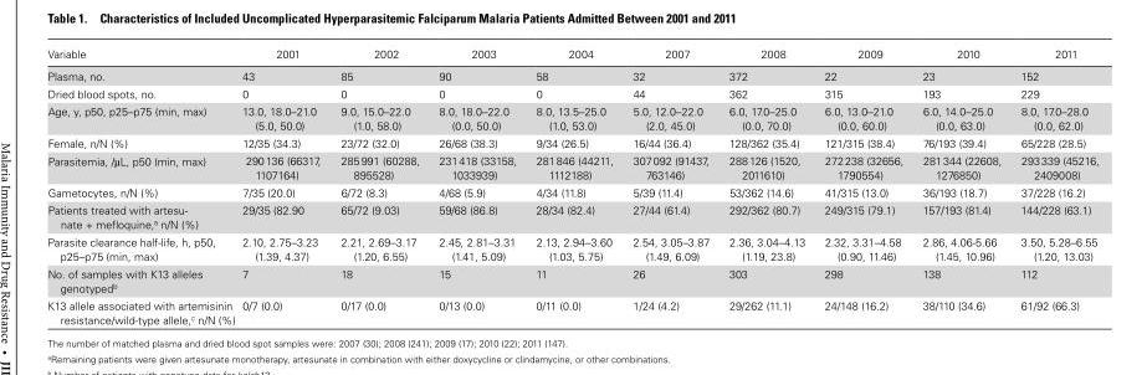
<table><thead><tr><td>Variable</td><td>2001</td><td>2002</td><td>2003</td><td>2004</td><td>2007</td><td>2008</td><td>2009</td><td>2010</td><td>2011</td></tr></thead><tbody><tr><td>Plasma, no.</td><td>43</td><td>85</td><td>90</td><td>58</td><td>32</td><td>372</td><td>22</td><td>23</td><td>152</td></tr><tr><td>Dried blood spots, no.</td><td>0</td><td>0</td><td>0</td><td>0</td><td>44</td><td>362</td><td>315</td><td>193</td><td>229</td></tr><tr><td>Age, y, p50, p25–p75 (min, max)</td><td>13.0, 18.0–21.0 (5.0, 50.0)</td><td>9.0, 15.0–22.0 (1.0, 58.0)</td><td>8.0, 18.0–22.0 (0.0, 50.0)</td><td>8.0, 13.5–25.0 (1.0, 53.0)</td><td>5.0, 12.0–22.0 (2.0, 45.0)</td><td>6.0, 17.0–25.0 (0.0, 70.0)</td><td>6.0, 13.0–21.0 (0.0, 60.0)</td><td>6.0, 14.0–25.0 (0.0, 63.0)</td><td>8.0, 17.0–28.0 (0.0, 62.0)</td></tr><tr><td>Female, n/N (%)</td><td>12/35 (34.3)</td><td>23/72 (32.0)</td><td>26/68 (38.3)</td><td>9/34 (26.5)</td><td>16/44 (36.4)</td><td>128/362 (35.4)</td><td>121/315 (38.4)</td><td>76/193 (39.4)</td><td>65/228 (28.5)</td></tr><tr><td>Parasitemia, /µL, p50 (min, max)</td><td>290 136 (66317, 1107164)</td><td>285 991 (60288, 895528)</td><td>231 418 (33158, 1033939)</td><td>281 846 (44211, 1112188)</td><td>307 092 (91437, 763146)</td><td>288 126 (1520, 2011610)</td><td>272 238 (32656, 1790554)</td><td>281 344 (22608, 1276850)</td><td>293 339 (45216, 2409008)</td></tr><tr><td>Gametocytes, n/N (%)</td><td>7/35 (20.0)</td><td>6/72 (8.3)</td><td>4/68 (5.9)</td><td>4/34 (11.8)</td><td>5/39 (11.4)</td><td>53/362 (14.6)</td><td>41/315 (13.0)</td><td>36/193 (18.7)</td><td>37/228 (16.2)</td></tr><tr><td>Patients treated with artesu- nate + mefloquine,a n/N (%)</td><td>29/35 (82.90</td><td>65/72 (9.03)</td><td>59/68 (86.8)</td><td>28/34 (82.4)</td><td>27/44 (61.4)</td><td>292/362 (80.7)</td><td>249/315 (79.1)</td><td>157/193 (81.4)</td><td>144/228 (63.1)</td></tr><tr><td>Parasite clearance half-life, h, p50, p25–p75 (min, max)</td><td>2.10, 2.75–3.23 (1.39, 4.37)</td><td>2.21, 2.69–3.17 (1.20, 6.55)</td><td>2.45, 2.81–3.31 (1.41, 5.09)</td><td>2.13, 2.94–3.60 (1.03, 5.75)</td><td>2.54, 3.05–3.87 (1.49, 6.09)</td><td>2.36, 3.04–4.13 (1.19, 23.8)</td><td>2.32, 3.31–4.58 (0.90, 11.46)</td><td>2.86, 4.06-5.66 (1.45, 10.96)</td><td>3.50, 5.28–6.55 (1.20, 13.03)</td></tr><tr><td>No. of samples with K13 alleles genotyped<sup>b</sup></td><td>7</td><td>18</td><td>15</td><td>11</td><td>26</td><td>303</td><td>298</td><td>138</td><td>112</td></tr><tr><td>K13 allele associated with artemisinin resistance/wild-type allele,<sup>c</sup> n/N (%)</td><td>0/7 (0.0)</td><td>0/17 (0.0)</td><td>0/13 (0.0)</td><td>0/11 (0.0)</td><td>1/24 (4.2)</td><td>29/262 (11.1)</td><td>24/148 (16.2)</td><td>38/110 (34.6)</td><td>61/92 (66.3)</td></tr></tbody></table>